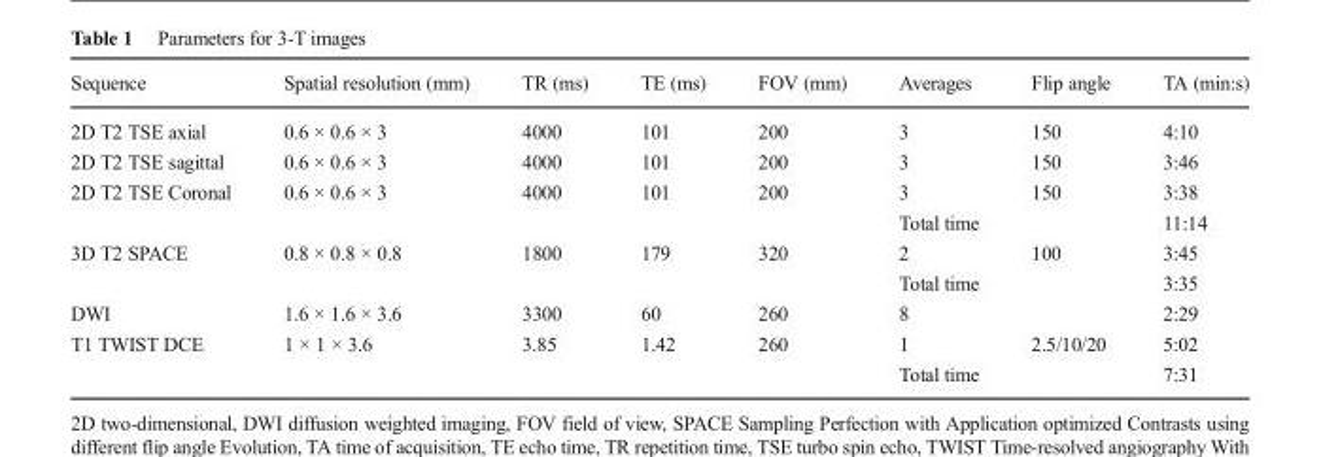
<table><thead><tr><td>Sequence</td><td>Spatial resolution (mm)</td><td>TR (ms)</td><td>TE (ms)</td><td>FOV (mm)</td><td>Averages</td><td>Flip angle</td><td>TA (min:s)</td></tr></thead><tbody><tr><td>2D T2 TSE axial</td><td>0.6 × 0.6 × 3</td><td>4000</td><td>101</td><td>200</td><td>3</td><td>150</td><td>4:10</td></tr><tr><td>2D T2 TSE sagittal</td><td>0.6 × 0.6 × 3</td><td>4000</td><td>101</td><td>200</td><td>3</td><td>150</td><td>3:46</td></tr><tr><td rowspan="2">2D T2 TSE Coronal</td><td>0.6 × 0.6 × 3</td><td>4000</td><td>101</td><td>200</td><td>3</td><td>150</td><td>3:38</td></tr><tr><td></td><td></td><td></td><td></td><td>Total time</td><td></td><td>11:14</td></tr><tr><td rowspan="2">3D T2 SPACE</td><td>0.8 × 0.8 × 0.8</td><td>1800</td><td>179</td><td>320</td><td>2</td><td>100</td><td>3:45</td></tr><tr><td></td><td></td><td></td><td></td><td>Total time</td><td></td><td>3:35</td></tr><tr><td>DWI</td><td>1.6 × 1.6 × 3.6</td><td>3300</td><td>60</td><td>260</td><td>8</td><td></td><td>2:29</td></tr><tr><td rowspan="2">T1 TWIST DCE</td><td>1 × 1 × 3.6</td><td>3.85</td><td>1.42</td><td>260</td><td>1</td><td>2.5/10/20</td><td>5:02</td></tr><tr><td></td><td></td><td></td><td></td><td>Total time</td><td></td><td>7:31</td></tr></tbody></table>